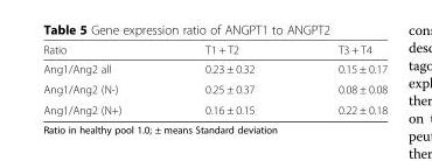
<table><thead><tr><td>Ratio</td><td>T1 + T2</td><td>T3 + T4</td></tr></thead><tbody><tr><td>Ang1/Ang2 all</td><td>0.23 ± 0.32</td><td>0.15 ± 0.17</td></tr><tr><td>Ang1/Ang2 (N-)</td><td>0.25 ± 0.37</td><td>0.08 ± 0.08</td></tr><tr><td>Ang1/Ang2 (N+)</td><td>0.16 ± 0.15</td><td>0.22 ± 0.18</td></tr></tbody></table>